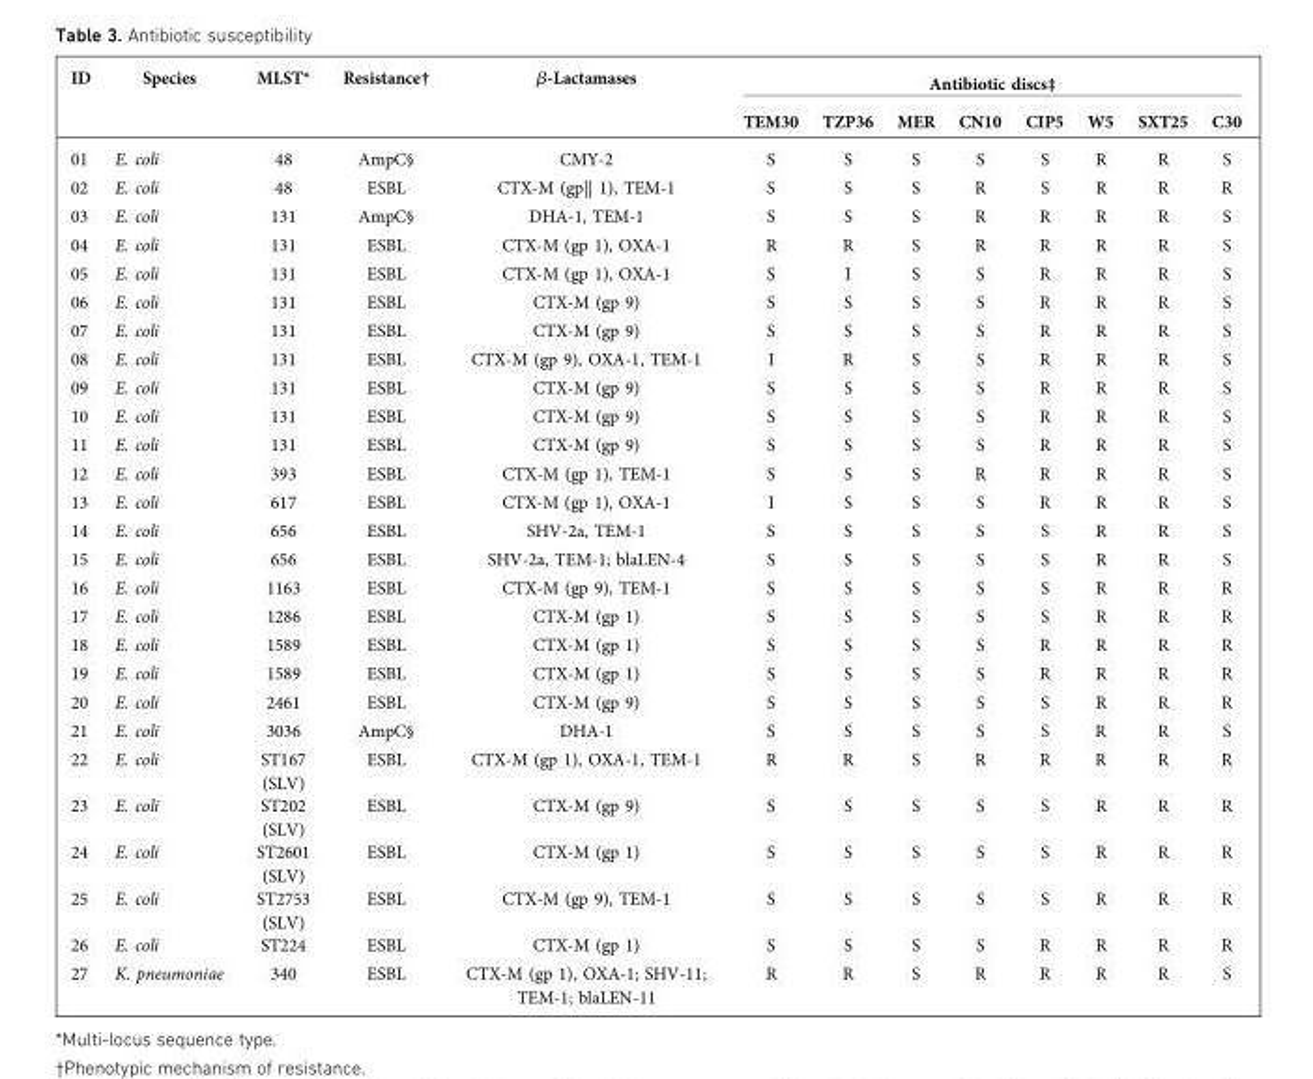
<table><thead><tr><td rowspan="2">ID</td><td rowspan="2">Species</td><td rowspan="2">MLST*</td><td rowspan="2">Resistance†</td><td rowspan="2">β-Lactamases</td><td colspan="8">Antibiotic discs‡</td></tr><tr><td>TEM30</td><td>TZP36</td><td>MER</td><td>CN10</td><td>CIP5</td><td>W5</td><td>SXT25</td><td>C30</td></tr></thead><tbody><tr><td>01</td><td>E. coli</td><td>48</td><td>AmpC§</td><td>CMY-2</td><td>S</td><td>S</td><td>S</td><td>S</td><td>S</td><td>R</td><td>R</td><td>S</td></tr><tr><td>02</td><td>E. coli</td><td>48</td><td>ESBL</td><td>CTX-M (gp|| 1), TEM-1</td><td>S</td><td>S</td><td>S</td><td>R</td><td>S</td><td>R</td><td>R</td><td>R</td></tr><tr><td>03</td><td>E. coli</td><td>131</td><td>AmpC§</td><td>DHA-1, TEM-1</td><td>S</td><td>S</td><td>S</td><td>R</td><td>R</td><td>R</td><td>R</td><td>S</td></tr><tr><td>04</td><td>E. coli</td><td>131</td><td>ESBL</td><td>CTX-M (gp 1), OXA-1</td><td>R</td><td>R</td><td>S</td><td>R</td><td>R</td><td>R</td><td>R</td><td>S</td></tr><tr><td>05</td><td>E. coli</td><td>131</td><td>ESBL</td><td>CTX-M (gp 1), OXA-1</td><td>S</td><td>I</td><td>S</td><td>S</td><td>R</td><td>R</td><td>R</td><td>S</td></tr><tr><td>06</td><td>E. coli</td><td>131</td><td>ESBL</td><td>CTX-M (gp 9)</td><td>S</td><td>S</td><td>S</td><td>S</td><td>R</td><td>R</td><td>R</td><td>S</td></tr><tr><td>07</td><td>E. coli</td><td>131</td><td>ESBL</td><td>CTX-M (gp 9)</td><td>S</td><td>S</td><td>S</td><td>S</td><td>R</td><td>R</td><td>R</td><td>S</td></tr><tr><td>08</td><td>E. coli</td><td>131</td><td>ESBL</td><td>CTX-M (gp 9), OXA-1, TEM-1</td><td>I</td><td>R</td><td>S</td><td>S</td><td>R</td><td>R</td><td>R</td><td>S</td></tr><tr><td>09</td><td>E. coli</td><td>131</td><td>ESBL</td><td>CTX-M (gp 9)</td><td>S</td><td>S</td><td>S</td><td>S</td><td>R</td><td>R</td><td>R</td><td>S</td></tr><tr><td>10</td><td>E. coli</td><td>131</td><td>ESBL</td><td>CTX-M (gp 9)</td><td>S</td><td>S</td><td>S</td><td>S</td><td>R</td><td>R</td><td>R</td><td>S</td></tr><tr><td>11</td><td>E. coli</td><td>131</td><td>ESBL</td><td>CTX-M (gp 9)</td><td>S</td><td>S</td><td>S</td><td>S</td><td>R</td><td>R</td><td>R</td><td>S</td></tr><tr><td>12</td><td>E. coli</td><td>393</td><td>ESBL</td><td>CTX-M (gp 1), TEM-1</td><td>S</td><td>S</td><td>S</td><td>R</td><td>R</td><td>R</td><td>R</td><td>S</td></tr><tr><td>13</td><td>E. coli</td><td>617</td><td>ESBL</td><td>CTX-M (gp 1), OXA-1</td><td>I</td><td>S</td><td>S</td><td>S</td><td>R</td><td>R</td><td>R</td><td>S</td></tr><tr><td>14</td><td>E. coli</td><td>656</td><td>ESBL</td><td>SHV-2a, TEM-1</td><td>S</td><td>S</td><td>S</td><td>S</td><td>S</td><td>R</td><td>R</td><td>S</td></tr><tr><td>15</td><td>E. coli</td><td>656</td><td>ESBL</td><td>SHV-2a, TEM-1; blaLEN-4</td><td>S</td><td>S</td><td>S</td><td>S</td><td>S</td><td>R</td><td>R</td><td>S</td></tr><tr><td>16</td><td>E. coli</td><td>1163</td><td>ESBL</td><td>CTX-M (gp 9), TEM-1</td><td>S</td><td>S</td><td>S</td><td>S</td><td>S</td><td>R</td><td>R</td><td>R</td></tr><tr><td>17</td><td>E. coli</td><td>1286</td><td>ESBL</td><td>CTX-M (gp 1)</td><td>S</td><td>S</td><td>S</td><td>S</td><td>S</td><td>R</td><td>R</td><td>R</td></tr><tr><td>18</td><td>E. coli</td><td>1589</td><td>ESBL</td><td>CTX-M (gp 1)</td><td>S</td><td>S</td><td>S</td><td>S</td><td>R</td><td>R</td><td>R</td><td>R</td></tr><tr><td>19</td><td>E. coli</td><td>1589</td><td>ESBL</td><td>CTX-M (gp 1)</td><td>S</td><td>S</td><td>S</td><td>S</td><td>R</td><td>R</td><td>R</td><td>R</td></tr><tr><td>20</td><td>E. coli</td><td>2461</td><td>ESBL</td><td>CTX-M (gp 9)</td><td>S</td><td>S</td><td>S</td><td>S</td><td>S</td><td>R</td><td>R</td><td>R</td></tr><tr><td>21</td><td>E. coli</td><td>3036</td><td>AmpC§</td><td>DHA-1</td><td>S</td><td>S</td><td>S</td><td>S</td><td>S</td><td>R</td><td>R</td><td>S</td></tr><tr><td>22</td><td>E. coli</td><td>ST167 (SLV)</td><td>ESBL</td><td>CTX-M (gp 1), OXA-1, TEM-1</td><td>R</td><td>R</td><td>S</td><td>R</td><td>R</td><td>R</td><td>R</td><td>R</td></tr><tr><td>23</td><td>E. coli</td><td>ST202 (SLV)</td><td>ESBL</td><td>CTX-M (gp 9)</td><td>S</td><td>S</td><td>S</td><td>S</td><td>S</td><td>R</td><td>R</td><td>R</td></tr><tr><td>24</td><td>E. coli</td><td>ST2601 (SLV)</td><td>ESBL</td><td>CTX-M (gp 1)</td><td>S</td><td>S</td><td>S</td><td>S</td><td>S</td><td>R</td><td>R</td><td>R</td></tr><tr><td>25</td><td>E. coli</td><td>ST2753 (SLV)</td><td>ESBL</td><td>CTX-M (gp 9), TEM-1</td><td>S</td><td>S</td><td>S</td><td>S</td><td>S</td><td>R</td><td>R</td><td>R</td></tr><tr><td>26</td><td>E. coli</td><td>ST224</td><td>ESBL</td><td>CTX-M (gp 1)</td><td>S</td><td>S</td><td>S</td><td>S</td><td>R</td><td>R</td><td>R</td><td>R</td></tr><tr><td>27</td><td>K. pneumoniae</td><td>340</td><td>ESBL</td><td>CTX-M (gp 1), OXA-1; SHV-11; TEM-1; blaLEN-11</td><td>R</td><td>R</td><td>S</td><td>R</td><td>R</td><td>R</td><td>R</td><td>S</td></tr></tbody></table>